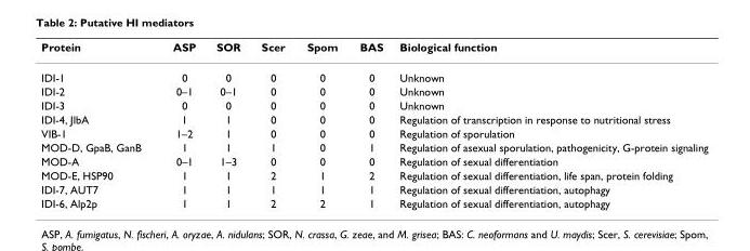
<table><thead><tr><td>Protein</td><td>ASP</td><td>SOR</td><td>Scer</td><td>Spom</td><td>BAS</td><td>Biological function</td></tr></thead><tbody><tr><td>IDI-1</td><td>0</td><td>0</td><td>0</td><td>0</td><td>0</td><td>Unknown</td></tr><tr><td>IDI-2</td><td>0–1</td><td>0–1</td><td>0</td><td>0</td><td>0</td><td>Unknown</td></tr><tr><td>IDI-3</td><td>0</td><td>0</td><td>0</td><td>0</td><td>0</td><td>Unknown</td></tr><tr><td>IDI-4, JlbA</td><td>1</td><td>1</td><td>0</td><td>0</td><td>0</td><td>Regulation of transcription in response to nutritional stress</td></tr><tr><td>VIB-1</td><td>1–2</td><td>1</td><td>0</td><td>0</td><td>0</td><td>Regulation of sporulation</td></tr><tr><td>MOD-D, GpaB, GanB</td><td>1</td><td>1</td><td>1</td><td>0</td><td>1</td><td>Regulation of asexual sporulation, pathogenicity, G-protein signaling</td></tr><tr><td>MOD-A</td><td>0–1</td><td>1–3</td><td>0</td><td>0</td><td>0</td><td>Regulation of sexual differentiation</td></tr><tr><td>MOD-E, HSP90</td><td>1</td><td>1</td><td>2</td><td>1</td><td>2</td><td>Regulation of sexual differentiation, life span, protein folding</td></tr><tr><td>IDI-7, AUT7</td><td>1</td><td>1</td><td>1</td><td>1</td><td>1</td><td>Regulation of sexual differentiation, autophagy</td></tr><tr><td>IDI-6, Alp2p</td><td>1</td><td>1</td><td>2</td><td>2</td><td>1</td><td>Regulation of sexual differentiation, autophagy</td></tr></tbody></table>